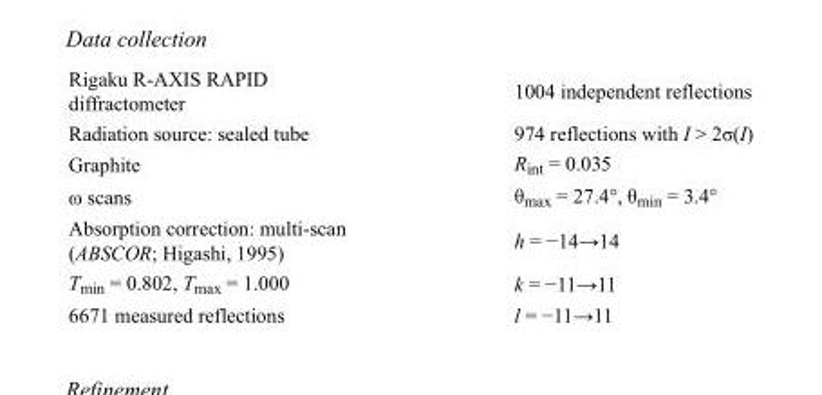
<table><tbody><tr><td>Rigaku R-AXIS RAPID diffractometer</td><td>1004 independent reflections</td></tr><tr><td>Radiation source: sealed tube</td><td>974 reflections with I &gt; 2σ(I)</td></tr><tr><td>Graphite</td><td>R<sub>int</sub> = 0.035</td></tr><tr><td>ω scans</td><td>θ<sub>max</sub> = 27.4°, θ<sub>min</sub> = 3.4°</td></tr><tr><td>Absorption correction: multi-scan (ABSCOR; Higashi, 1995)</td><td>h = −14→14</td></tr><tr><td>T<sub>min</sub> = 0.802, T<sub>max</sub> = 1.000</td><td>k = −11→11</td></tr><tr><td>6671 measured reflections</td><td>l = −11→11</td></tr></tbody></table>